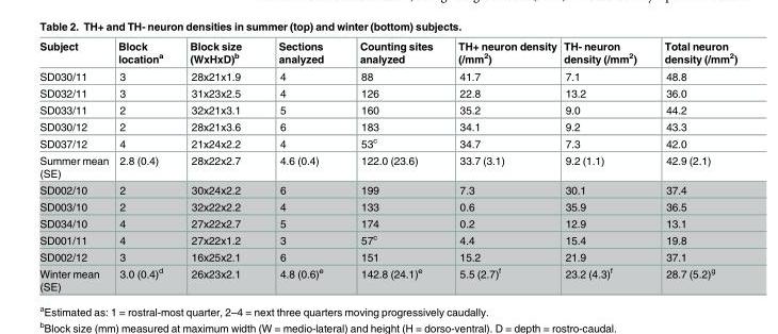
<table><thead><tr><td>Subject</td><td>Block location<sup>a</sup></td><td>Block size (WxHxD)<sup>b</sup></td><td>Sections analyzed</td><td>Counting sites analyzed</td><td>TH+ neuron density (/mm<sup>2</sup>)</td><td>TH- neuron density (/mm<sup>2</sup>)</td><td>Total neuron density (/mm<sup>2</sup>)</td></tr></thead><tbody><tr><td>SD030/11</td><td>3</td><td>28x21x1.9</td><td>4</td><td>88</td><td>41.7</td><td>7.1</td><td>48.8</td></tr><tr><td>SD032/11</td><td>3</td><td>31x23x2.5</td><td>4</td><td>126</td><td>22.8</td><td>13.2</td><td>36.0</td></tr><tr><td>SD033/11</td><td>2</td><td>32x21x3.1</td><td>5</td><td>160</td><td>35.2</td><td>9.0</td><td>44.2</td></tr><tr><td>SD030/12</td><td>2</td><td>28x21x3.6</td><td>6</td><td>183</td><td>34.1</td><td>9.2</td><td>43.3</td></tr><tr><td>SD037/12</td><td>4</td><td>21x24x2.2</td><td>4</td><td>53<sup>c</sup></td><td>34.7</td><td>7.3</td><td>42.0</td></tr><tr><td>Summer mean (SE)</td><td>2.8 (0.4)</td><td>28x22x2.7</td><td>4.6 (0.4)</td><td>122.0 (23.6)</td><td>33.7 (3.1)</td><td>9.2 (1.1)</td><td>42.9 (2.1)</td></tr><tr><td>SD002/10</td><td>2</td><td>30x24x2.2</td><td>6</td><td>199</td><td>7.3</td><td>30.1</td><td>37.4</td></tr><tr><td>SD003/10</td><td>2</td><td>32x22x2.2</td><td>4</td><td>133</td><td>0.6</td><td>35.9</td><td>36.5</td></tr><tr><td>SD034/10</td><td>4</td><td>27x22x2.7</td><td>5</td><td>174</td><td>0.2</td><td>12.9</td><td>13.1</td></tr><tr><td>SD001/11</td><td>4</td><td>27x22x1.2</td><td>3</td><td>57<sup>c</sup></td><td>4.4</td><td>15.4</td><td>19.8</td></tr><tr><td>SD002/12</td><td>3</td><td>16x25x2.1</td><td>6</td><td>151</td><td>15.2</td><td>21.9</td><td>37.1</td></tr><tr><td>Winter mean (SE)</td><td>3.0 (0.4)<sup>d</sup></td><td>26x23x2.1</td><td>4.8 (0.6)<sup>e</sup></td><td>142.8 (24.1)<sup>e</sup></td><td>5.5 (2.7)<sup>f</sup></td><td>23.2 (4.3)<sup>f</sup></td><td>28.7 (5.2)<sup>g</sup></td></tr></tbody></table>